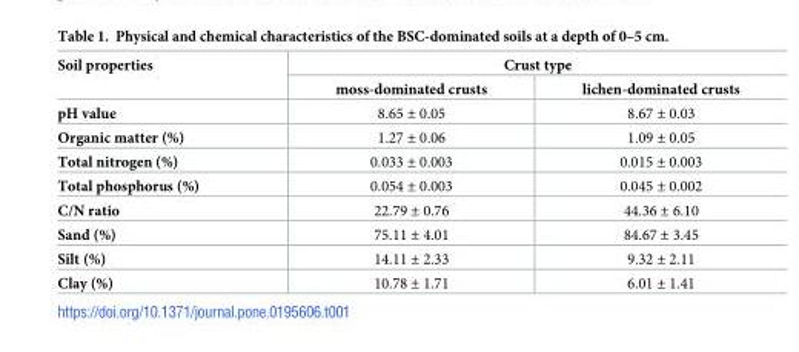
<table><thead><tr><td rowspan="2">Soil properties</td><td colspan="2">Crust type</td></tr><tr><td>moss-dominated crusts</td><td>lichen-dominated crusts</td></tr></thead><tbody><tr><td>pH value</td><td>8.65 ± 0.05</td><td>8.67 ± 0.03</td></tr><tr><td>Organic matter (%)</td><td>1.27 ± 0.06</td><td>1.09 ± 0.05</td></tr><tr><td>Total nitrogen (%)</td><td>0.033 ± 0.003</td><td>0.015 ± 0.003</td></tr><tr><td>Total phosphorus (%)</td><td>0.054 ± 0.003</td><td>0.045 ± 0.002</td></tr><tr><td>C/N ratio</td><td>22.79 ± 0.76</td><td>44.36 ± 6.10</td></tr><tr><td>Sand (%)</td><td>75.11 ± 4.01</td><td>84.67 ± 3.45</td></tr><tr><td>Silt (%)</td><td>14.11 ± 2.33</td><td>9.32 ± 2.11</td></tr><tr><td>Clay (%)</td><td>10.78 ± 1.71</td><td>6.01 ± 1.41</td></tr></tbody></table>